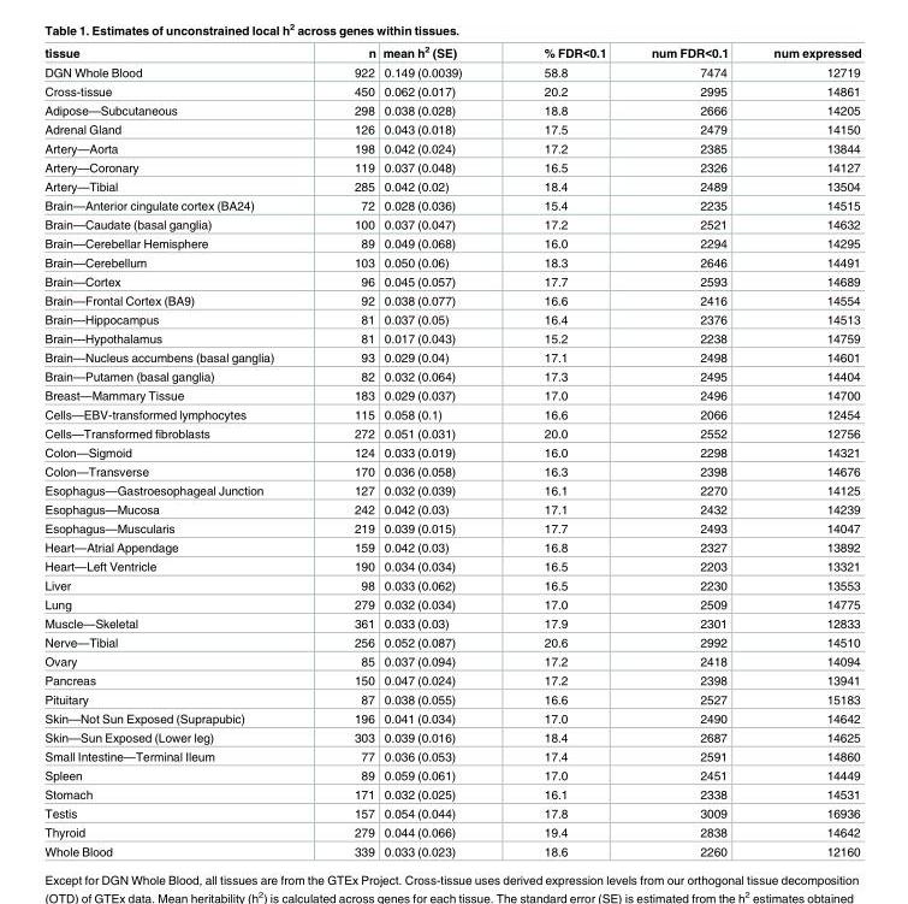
<table><thead><tr><td>tissue</td><td>n</td><td>mean h<sup>2</sup> (SE)</td><td>% FDR&lt;0.1</td><td>num FDR&lt;0.1</td><td>num expressed</td></tr></thead><tbody><tr><td>DGN Whole Blood</td><td>922</td><td>0.149 (0.0039)</td><td>58.8</td><td>7474</td><td>12719</td></tr><tr><td>Cross-tissue</td><td>450</td><td>0.062 (0.017)</td><td>20.2</td><td>2995</td><td>14861</td></tr><tr><td>Adipose—Subcutaneous</td><td>298</td><td>0.038 (0.028)</td><td>18.8</td><td>2666</td><td>14205</td></tr><tr><td>Adrenal Gland</td><td>126</td><td>0.043 (0.018)</td><td>17.5</td><td>2479</td><td>14150</td></tr><tr><td>Artery—Aorta</td><td>198</td><td>0.042 (0.024)</td><td>17.2</td><td>2385</td><td>13844</td></tr><tr><td>Artery—Coronary</td><td>119</td><td>0.037 (0.048)</td><td>16.5</td><td>2326</td><td>14127</td></tr><tr><td>Artery—Tibial</td><td>285</td><td>0.042 (0.02)</td><td>18.4</td><td>2489</td><td>13504</td></tr><tr><td>Brain—Anterior cingulate cortex (BA24)</td><td>72</td><td>0.028 (0.036)</td><td>15.4</td><td>2235</td><td>14515</td></tr><tr><td>Brain—Caudate (basal ganglia)</td><td>100</td><td>0.037 (0.047)</td><td>17.2</td><td>2521</td><td>14632</td></tr><tr><td>Brain—Cerebellar Hemisphere</td><td>89</td><td>0.049 (0.068)</td><td>16.0</td><td>2294</td><td>14295</td></tr><tr><td>Brain—Cerebellum</td><td>103</td><td>0.050 (0.06)</td><td>18.3</td><td>2646</td><td>14491</td></tr><tr><td>Brain—Cortex</td><td>96</td><td>0.045 (0.057)</td><td>17.7</td><td>2593</td><td>14689</td></tr><tr><td>Brain—Frontal Cortex (BA9)</td><td>92</td><td>0.038 (0.077)</td><td>16.6</td><td>2416</td><td>14554</td></tr><tr><td>Brain—Hippocampus</td><td>81</td><td>0.037 (0.05)</td><td>16.4</td><td>2376</td><td>14513</td></tr><tr><td>Brain—Hypothalamus</td><td>81</td><td>0.017 (0.043)</td><td>15.2</td><td>2238</td><td>14759</td></tr><tr><td>Brain—Nucleus accumbens (basal ganglia)</td><td>93</td><td>0.029 (0.04)</td><td>17.1</td><td>2498</td><td>14601</td></tr><tr><td>Brain—Putamen (basal ganglia)</td><td>82</td><td>0.032 (0.064)</td><td>17.3</td><td>2495</td><td>14404</td></tr><tr><td>Breast—Mammary Tissue</td><td>183</td><td>0.029 (0.037)</td><td>17.0</td><td>2496</td><td>14700</td></tr><tr><td>Cells—EBV-transformed lymphocytes</td><td>115</td><td>0.058 (0.1)</td><td>16.6</td><td>2066</td><td>12454</td></tr><tr><td>Cells—Transformed fibroblasts</td><td>272</td><td>0.051 (0.031)</td><td>20.0</td><td>2552</td><td>12756</td></tr><tr><td>Colon—Sigmoid</td><td>124</td><td>0.033 (0.019)</td><td>16.0</td><td>2298</td><td>14321</td></tr><tr><td>Colon—Transverse</td><td>170</td><td>0.036 (0.058)</td><td>16.3</td><td>2398</td><td>14676</td></tr><tr><td>Esophagus—Gastroesophageal Junction</td><td>127</td><td>0.032 (0.039)</td><td>16.1</td><td>2270</td><td>14125</td></tr><tr><td>Esophagus—Mucosa</td><td>242</td><td>0.042 (0.03)</td><td>17.1</td><td>2432</td><td>14239</td></tr><tr><td>Esophagus—Muscularis</td><td>219</td><td>0.039 (0.015)</td><td>17.7</td><td>2493</td><td>14047</td></tr><tr><td>Heart—Atrial Appendage</td><td>159</td><td>0.042 (0.03)</td><td>16.8</td><td>2327</td><td>13892</td></tr><tr><td>Heart—Left Ventricle</td><td>190</td><td>0.034 (0.034)</td><td>16.5</td><td>2203</td><td>13321</td></tr><tr><td>Liver</td><td>98</td><td>0.033 (0.062)</td><td>16.5</td><td>2230</td><td>13553</td></tr><tr><td>Lung</td><td>279</td><td>0.032 (0.034)</td><td>17.0</td><td>2509</td><td>14775</td></tr><tr><td>Muscle—Skeletal</td><td>361</td><td>0.033 (0.03)</td><td>17.9</td><td>2301</td><td>12833</td></tr><tr><td>Nerve—Tibial</td><td>256</td><td>0.052 (0.087)</td><td>20.6</td><td>2992</td><td>14510</td></tr><tr><td>Ovary</td><td>85</td><td>0.037 (0.094)</td><td>17.2</td><td>2418</td><td>14094</td></tr><tr><td>Pancreas</td><td>150</td><td>0.047 (0.024)</td><td>17.2</td><td>2398</td><td>13941</td></tr><tr><td>Pituitary</td><td>87</td><td>0.038 (0.055)</td><td>16.6</td><td>2527</td><td>15183</td></tr><tr><td>Skin—Not Sun Exposed (Suprapubic)</td><td>196</td><td>0.041 (0.034)</td><td>17.0</td><td>2490</td><td>14642</td></tr><tr><td>Skin—Sun Exposed (Lower leg)</td><td>303</td><td>0.039 (0.016)</td><td>18.4</td><td>2687</td><td>14625</td></tr><tr><td>Small Intestine—Terminal Ileum</td><td>77</td><td>0.036 (0.053)</td><td>17.4</td><td>2591</td><td>14860</td></tr><tr><td>Spleen</td><td>89</td><td>0.059 (0.061)</td><td>17.0</td><td>2451</td><td>14449</td></tr><tr><td>Stomach</td><td>171</td><td>0.032 (0.025)</td><td>16.1</td><td>2338</td><td>14531</td></tr><tr><td>Testis</td><td>157</td><td>0.054 (0.044)</td><td>17.8</td><td>3009</td><td>16936</td></tr><tr><td>Thyroid</td><td>279</td><td>0.044 (0.066)</td><td>19.4</td><td>2838</td><td>14642</td></tr><tr><td>Whole Blood</td><td>339</td><td>0.033 (0.023)</td><td>18.6</td><td>2260</td><td>12160</td></tr></tbody></table>